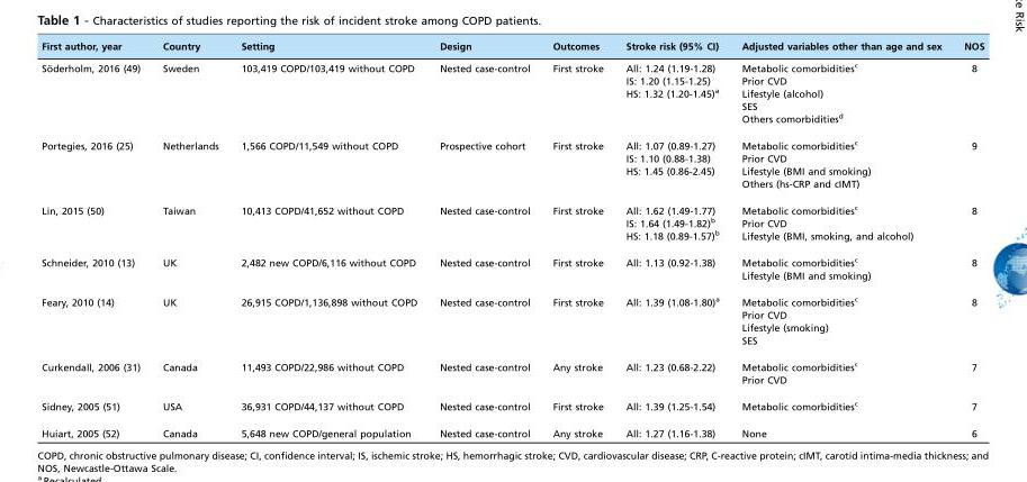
<table><thead><tr><td>First author, year</td><td>Country</td><td>Setting</td><td>Design</td><td>Outcomes</td><td>Stroke risk (95% CI)</td><td>Adjusted variables other than age and sex</td><td>NOS</td></tr></thead><tbody><tr><td>So¨ derholm, 2016 (49)</td><td>Sweden</td><td>103,419 COPD/103,419 without COPD</td><td>Nested case-control</td><td>First stroke</td><td>All: 1.24 (1.19-1.28) IS: 1.20 (1.15-1.25) HS: 1.32 (1.20-1.45)<sup>a</sup></td><td>Metabolic comorbidities<sup>c</sup> Prior CVD Lifestyle (alcohol) SES Others comorbidities<sup>d</sup></td><td>8</td></tr><tr><td>Portegies, 2016 (25)</td><td>Netherlands</td><td>1,566 COPD/11,549 without COPD</td><td>Prospective cohort</td><td>First stroke</td><td>All: 1.07 (0.89-1.27) IS: 1.10 (0.88-1.38) HS: 1.45 (0.86-2.45)</td><td>Metabolic comorbidities<sup>c</sup> Prior CVD Lifestyle (BMI and smoking) Others (hs-CRP and cIMT)</td><td>9</td></tr><tr><td>Lin, 2015 (50)</td><td>Taiwan</td><td>10,413 COPD/41,652 without COPD</td><td>Nested case-control</td><td>First stroke</td><td>All: 1.62 (1.49-1.77) IS: 1.64 (1.49-1.82)<sup>b</sup> HS: 1.18 (0.89-1.57)<sup>b</sup></td><td>Metabolic comorbidities<sup>c</sup> Prior CVD Lifestyle (BMI, smoking, and alcohol)</td><td>8</td></tr><tr><td>Schneider, 2010 (13)</td><td>UK</td><td>2,482 new COPD/6,116 without COPD</td><td>Nested case-control</td><td>First stroke</td><td>All: 1.13 (0.92-1.38)</td><td>Metabolic comorbidities<sup>c</sup> Lifestyle (BMI and smoking)</td><td>8</td></tr><tr><td>Feary, 2010 (14)</td><td>UK</td><td>26,915 COPD/1,136,898 without COPD</td><td>Nested case-control</td><td>First stroke</td><td>All: 1.39 (1.08-1.80)<sup>a</sup></td><td>Metabolic comorbidities<sup>c</sup> Prior CVD Lifestyle (smoking) SES</td><td>8</td></tr><tr><td>Curkendall, 2006 (31)</td><td>Canada</td><td>11,493 COPD/22,986 without COPD</td><td>Nested case-control</td><td>Any stroke</td><td>All: 1.23 (0.68-2.22)</td><td>Metabolic comorbidities<sup>c</sup> Prior CVD</td><td>7</td></tr><tr><td>Sidney, 2005 (51)</td><td>USA</td><td>36,931 COPD/44,137 without COPD</td><td>Nested case-control</td><td>First stroke</td><td>All: 1.39 (1.25-1.54)</td><td>Metabolic comorbidities<sup>c</sup></td><td>7</td></tr><tr><td>Huiart, 2005 (52)</td><td>Canada</td><td>5,648 new COPD/general population</td><td>Nested case-control</td><td>Any stroke</td><td>All: 1.27 (1.16-1.38)</td><td>None</td><td>6</td></tr></tbody></table>